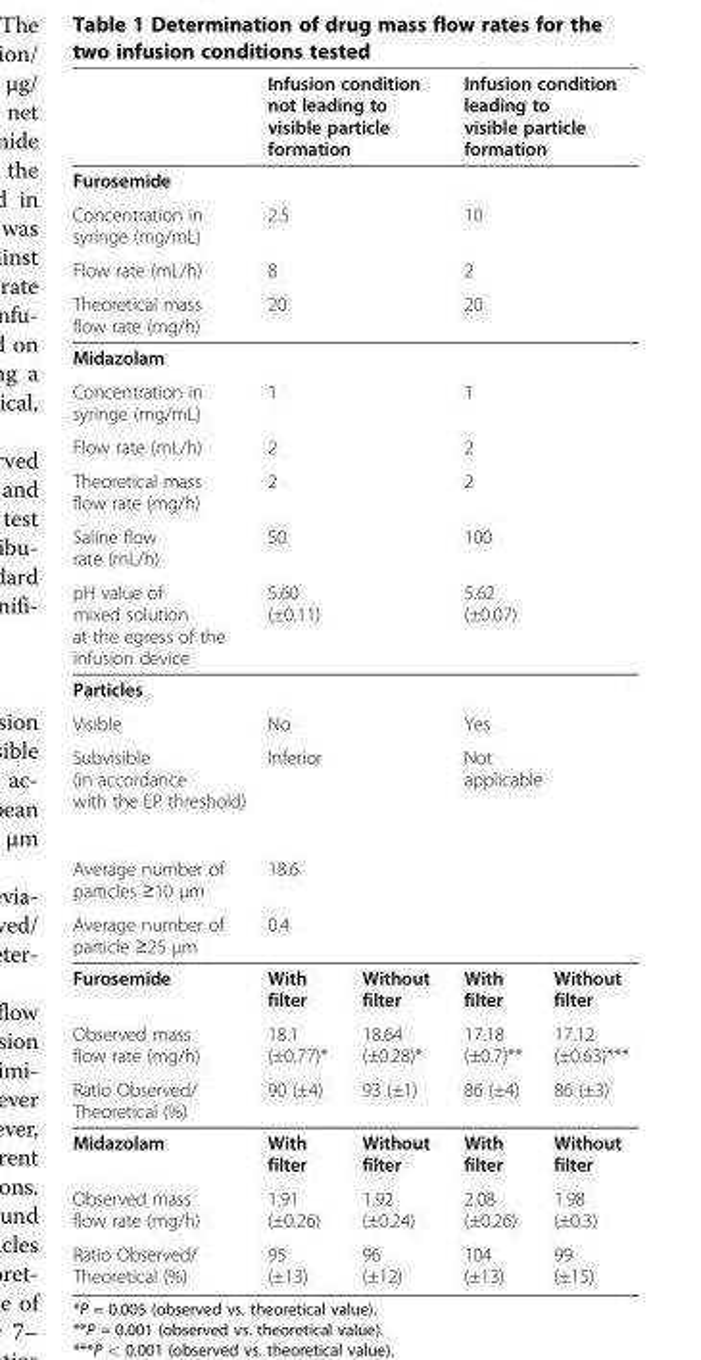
<table><thead><tr><td></td><td colspan="2">Infusion condition not leading to visible particle formation</td><td colspan="2">Infusion condition leading to visible particle formation</td></tr></thead><tbody><tr><td colspan="5">Furosemide</td></tr><tr><td>Concentration in syringe (mg/mL)</td><td colspan="2">2.5</td><td colspan="2">10</td></tr><tr><td>Flow rate (mL/h)</td><td colspan="2">8</td><td colspan="2">2</td></tr><tr><td>Theoretical mass flow rate (mg/h)</td><td colspan="2">20</td><td colspan="2">20</td></tr><tr><td colspan="5">Midazolam</td></tr><tr><td>Concentration in syringe (mg/mL)</td><td colspan="2">1</td><td colspan="2">1</td></tr><tr><td>Flow rate (mL/h)</td><td colspan="2">2</td><td colspan="2">2</td></tr><tr><td>Theoretical mass flow rate (mg/h)</td><td colspan="2">2</td><td colspan="2">2</td></tr><tr><td>Saline flow rate (mL/h)</td><td colspan="2">50</td><td colspan="2">100</td></tr><tr><td>pH value of mixed solution at the egress of the infusion device</td><td colspan="2">5.60 (±0.11)</td><td colspan="2">5.62 (±0.07)</td></tr><tr><td colspan="5">Particles</td></tr><tr><td>Visible</td><td colspan="2">No</td><td colspan="2">Yes</td></tr><tr><td>Subvisible (in accordance with the EP threshold)</td><td colspan="2">Inferior</td><td colspan="2">Not applicable</td></tr><tr><td>Average number of particles ≥10 μm</td><td colspan="2">18.6</td><td colspan="2"></td></tr><tr><td>Average number of particle ≥25 μm</td><td colspan="2">0.4</td><td colspan="2"></td></tr><tr><td>Furosemide</td><td>With filter</td><td>Without filter</td><td>With filter</td><td>Without filter</td></tr><tr><td>Observed mass flow rate (mg/h)</td><td>18.1 (±0.77)*</td><td>18.64 (±0.28)*</td><td>17.18 (±0.7)**</td><td>17.12 (±0.63)***</td></tr><tr><td>Ratio Observed/ Theoretical (%)</td><td>90 (±4)</td><td>93 (±1)</td><td>86 (±4)</td><td>86 (±3)</td></tr><tr><td>Midazolam</td><td>With filter</td><td>Without filter</td><td>With filter</td><td>Without filter</td></tr><tr><td>Observed mass flow rate (mg/h)</td><td>1.91 (±0.26)</td><td>1.92 (±0.24)</td><td>2.08 (±0.26)</td><td>1.98 (±0.3)</td></tr><tr><td>Ratio Observed/ Theoretical (%)</td><td>95 (±13)</td><td>96 (±12)</td><td>104 (±13)</td><td>99 (±15)</td></tr></tbody></table>